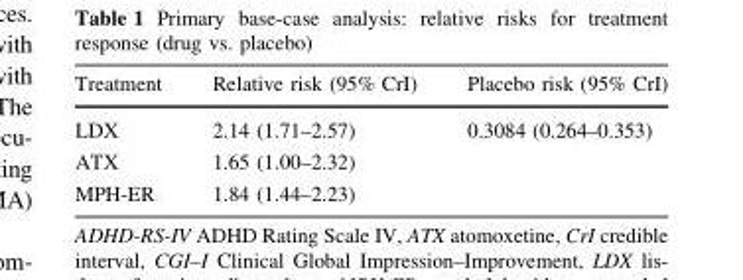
<table><thead><tr><td>Treatment</td><td>Relative risk (95% CrI)</td><td>Placebo risk (95% CrI)</td></tr></thead><tbody><tr><td>LDX</td><td>2.14 (1.71–2.57)</td><td rowspan="3">0.3084 (0.264–0.353)</td></tr><tr><td>ATX</td><td>1.65 (1.00–2.32)</td></tr><tr><td>MPH-ER</td><td>1.84 (1.44–2.23)</td></tr></tbody></table>